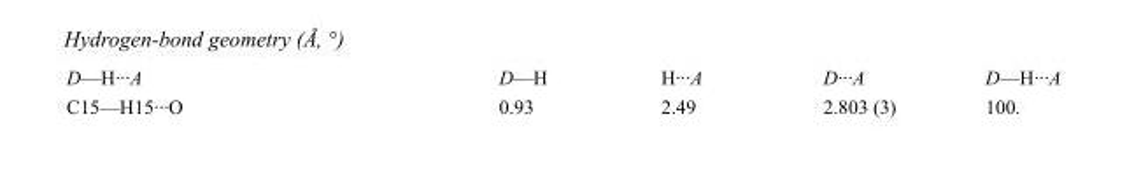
<table><tbody><tr><td>D—H···A</td><td>D—H</td><td>H···A</td><td>D···A</td><td>D—H···A</td></tr><tr><td>C15—H15···O</td><td>0.93</td><td>2.49</td><td>2.803 (3)</td><td>100.</td></tr></tbody></table>